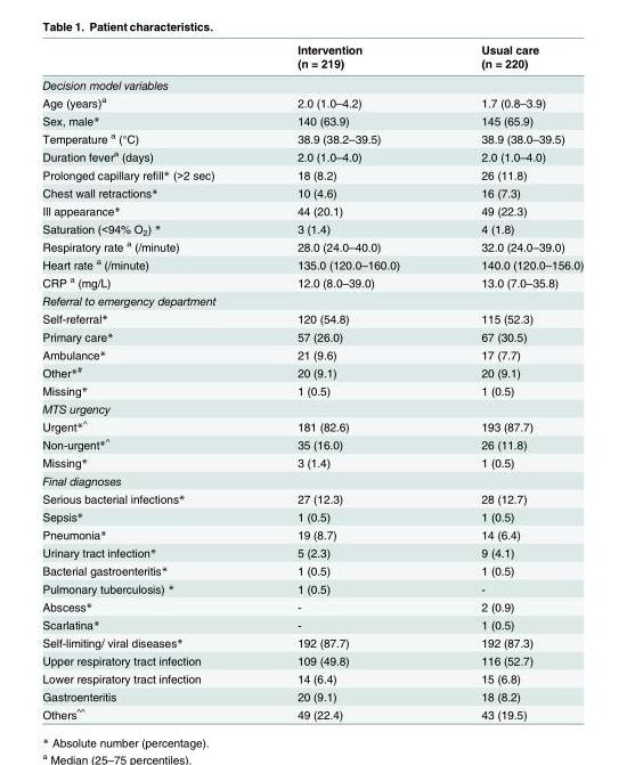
<table><thead><tr><td rowspan="2"></td><td rowspan="2">Intervention (n = 219)</td><td rowspan="2">Usual care (n = 220)</td></tr><tr></tr></thead><tbody><tr><td colspan="3">Decision model variables</td></tr><tr><td>Age (years)<sup>a</sup></td><td>2.0 (1.0–4.2)</td><td>1.7 (0.8–3.9)</td></tr><tr><td>Sex, male*</td><td>140 (63.9)</td><td>145 (65.9)</td></tr><tr><td>Temperature <sup>a</sup> (°C)</td><td>38.9 (38.2–39.5)</td><td>38.9 (38.0–39.5)</td></tr><tr><td>Duration fever<sup>a</sup> (days)</td><td>2.0 (1.0–4.0)</td><td>2.0 (1.0–4.0)</td></tr><tr><td>Prolonged capillary refill* (&gt;2 sec)</td><td>18 (8.2)</td><td>26 (11.8)</td></tr><tr><td>Chest wall retractions*</td><td>10 (4.6)</td><td>16 (7.3)</td></tr><tr><td>Ill appearance*</td><td>44 (20.1)</td><td>49 (22.3)</td></tr><tr><td>Saturation (&lt;94% O<sub>2</sub>) *</td><td>3 (1.4)</td><td>4 (1.8)</td></tr><tr><td>Respiratory rate <sup>a</sup> (/minute)</td><td>28.0 (24.0–40.0)</td><td>32.0 (24.0–39.0)</td></tr><tr><td>Heart rate <sup>a</sup> (/minute)</td><td>135.0 (120.0–160.0)</td><td>140.0 (120.0–156.0)</td></tr><tr><td>CRP <sup>a</sup> (mg/L)</td><td>12.0 (8.0–39.0)</td><td>13.0 (7.0–35.8)</td></tr><tr><td colspan="3">Referral to emergency department</td></tr><tr><td>Self-referral*</td><td>120 (54.8)</td><td>115 (52.3)</td></tr><tr><td>Primary care*</td><td>57 (26.0)</td><td>67 (30.5)</td></tr><tr><td>Ambulance*</td><td>21 (9.6)</td><td>17 (7.7)</td></tr><tr><td>Other*<sup>#</sup></td><td>20 (9.1)</td><td>20 (9.1)</td></tr><tr><td>Missing*</td><td>1 (0.5)</td><td>1 (0.5)</td></tr><tr><td colspan="3">MTS urgency</td></tr><tr><td>Urgent*<sup>^</sup></td><td>181 (82.6)</td><td>193 (87.7)</td></tr><tr><td>Non-urgent*<sup>^</sup></td><td>35 (16.0)</td><td>26 (11.8)</td></tr><tr><td>Missing*</td><td>3 (1.4)</td><td>1 (0.5)</td></tr><tr><td colspan="3">Final diagnoses</td></tr><tr><td>Serious bacterial infections*</td><td>27 (12.3)</td><td>28 (12.7)</td></tr><tr><td>Sepsis*</td><td>1 (0.5)</td><td>1 (0.5)</td></tr><tr><td>Pneumonia*</td><td>19 (8.7)</td><td>14 (6.4)</td></tr><tr><td>Urinary tract infection*</td><td>5 (2.3)</td><td>9 (4.1)</td></tr><tr><td>Bacterial gastroenteritis*</td><td>1 (0.5)</td><td>1 (0.5)</td></tr><tr><td>Pulmonary tuberculosis) *</td><td>1 (0.5)</td><td>-</td></tr><tr><td>Abscess*</td><td>-</td><td>2 (0.9)</td></tr><tr><td>Scarlatina*</td><td>-</td><td>1 (0.5)</td></tr><tr><td>Self-limiting/ viral diseases*</td><td>192 (87.7)</td><td>192 (87.3)</td></tr><tr><td>Upper respiratory tract infection</td><td>109 (49.8)</td><td>116 (52.7)</td></tr><tr><td>Lower respiratory tract infection</td><td>14 (6.4)</td><td>15 (6.8)</td></tr><tr><td>Gastroenteritis</td><td>20 (9.1)</td><td>18 (8.2)</td></tr><tr><td>Others^^</td><td>49 (22.4)</td><td>43 (19.5)</td></tr></tbody></table>